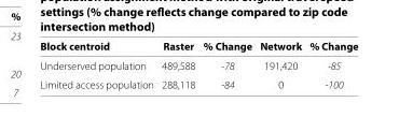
<table><thead><tr><td>Block centroid</td><td>Raster</td><td>% Change</td><td>Network</td><td>% Change</td></tr></thead><tbody><tr><td>Underserved population</td><td>489,588</td><td>-78</td><td>191,420</td><td>-85</td></tr><tr><td>Limited access population</td><td>288,118</td><td>-84</td><td>0</td><td>-100</td></tr></tbody></table>